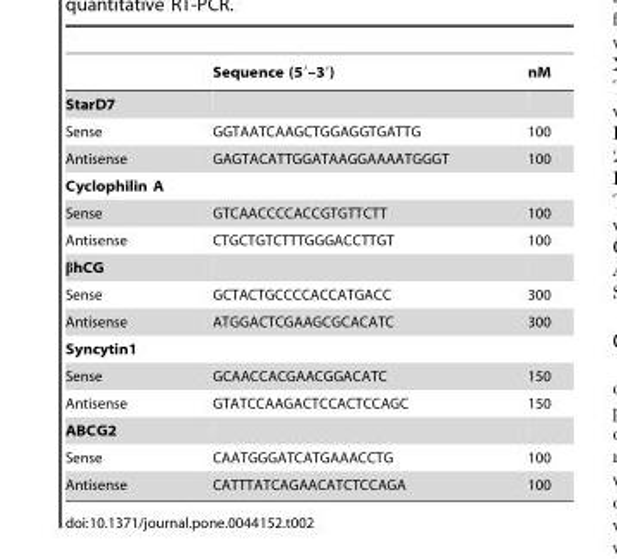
<table><thead><tr><td></td><td>Sequence (5′–3′)</td><td>nM</td></tr></thead><tbody><tr><td colspan="3">StarD7</td></tr><tr><td>Sense</td><td>GGTAATCAAGCTGGAGGTGATTG</td><td>100</td></tr><tr><td>Antisense</td><td>GAGTACATTGGATAAGGAAAATGGGT</td><td>100</td></tr><tr><td colspan="3">Cyclophilin A</td></tr><tr><td>Sense</td><td>GTCAACCCCACCGTGTTCTT</td><td>100</td></tr><tr><td>Antisense</td><td>CTGCTGTCTTTGGGACCTTGT</td><td>100</td></tr><tr><td colspan="3">βhCG</td></tr><tr><td>Sense</td><td>GCTACTGCCCCACCATGACC</td><td>300</td></tr><tr><td>Antisense</td><td>ATGGACTCGAAGCGCACATC</td><td>300</td></tr><tr><td colspan="3">Syncytin1</td></tr><tr><td>Sense</td><td>GCAACCACGAACGGACATC</td><td>150</td></tr><tr><td>Antisense</td><td>GTATCCAAGACTCCACTCCAGC</td><td>150</td></tr><tr><td colspan="3">ABCG2</td></tr><tr><td>Sense</td><td>CAATGGGATCATGAAACCTG</td><td>100</td></tr><tr><td>Antisense</td><td>CATTTATCAGAACATCTCCAGA</td><td>100</td></tr></tbody></table>